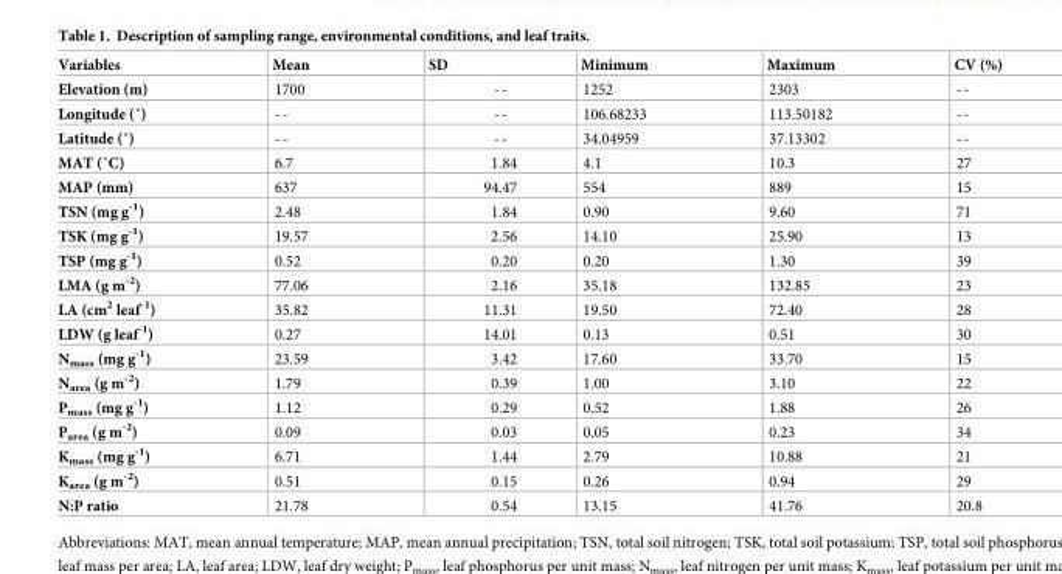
<table><thead><tr><td>Variables</td><td>Mean</td><td>SD</td><td>Minimum</td><td>Maximum</td><td>CV (%)</td></tr></thead><tbody><tr><td>Elevation (m)</td><td>1700</td><td>--</td><td>1252</td><td>2303</td><td>--</td></tr><tr><td>Longitude (˚)</td><td>--</td><td>--</td><td>106.68233</td><td>113.50182</td><td>--</td></tr><tr><td>Latitude (˚)</td><td>--</td><td>--</td><td>34.04959</td><td>37.13302</td><td>--</td></tr><tr><td>MAT (˚C)</td><td>6.7</td><td>1.84</td><td>4.1</td><td>10.3</td><td>27</td></tr><tr><td>MAP (mm)</td><td>637</td><td>94.47</td><td>554</td><td>889</td><td>15</td></tr><tr><td>TSN (mg g<sup>-1</sup>)</td><td>2.48</td><td>1.84</td><td>0.90</td><td>9.60</td><td>71</td></tr><tr><td>TSK (mg g<sup>-1</sup>)</td><td>19.57</td><td>2.56</td><td>14.10</td><td>25.90</td><td>13</td></tr><tr><td>TSP (mg g<sup>-1</sup>)</td><td>0.52</td><td>0.20</td><td>0.20</td><td>1.30</td><td>39</td></tr><tr><td>LMA (g m<sup>-2</sup>)</td><td>77.06</td><td>2.16</td><td>35.18</td><td>132.85</td><td>23</td></tr><tr><td>LA (cm<sup>2</sup> leaf<sup>-1</sup>)</td><td>35.82</td><td>11.31</td><td>19.50</td><td>72.40</td><td>28</td></tr><tr><td>LDW (g leaf<sup>-1</sup>)</td><td>0.27</td><td>14.01</td><td>0.13</td><td>0.51</td><td>30</td></tr><tr><td>N<sub>mass</sub> (mg g<sup>-1</sup>)</td><td>23.59</td><td>3.42</td><td>17.60</td><td>33.70</td><td>15</td></tr><tr><td>N<sub>area</sub> (g m<sup>-2</sup>)</td><td>1.79</td><td>0.39</td><td>1.00</td><td>3.10</td><td>22</td></tr><tr><td>P<sub>mass</sub> (mg g<sup>-1</sup>)</td><td>1.12</td><td>0.29</td><td>0.52</td><td>1.88</td><td>26</td></tr><tr><td>P<sub>area</sub> (g m<sup>-2</sup>)</td><td>0.09</td><td>0.03</td><td>0.05</td><td>0.23</td><td>34</td></tr><tr><td>K<sub>mass</sub> (mg g<sup>-1</sup>)</td><td>6.71</td><td>1.44</td><td>2.79</td><td>10.88</td><td>21</td></tr><tr><td>K<sub>area</sub> (g m<sup>-2</sup>)</td><td>0.51</td><td>0.15</td><td>0.26</td><td>0.94</td><td>29</td></tr><tr><td>N:P ratio</td><td>21.78</td><td>0.54</td><td>13.15</td><td>41.76</td><td>20.8</td></tr></tbody></table>